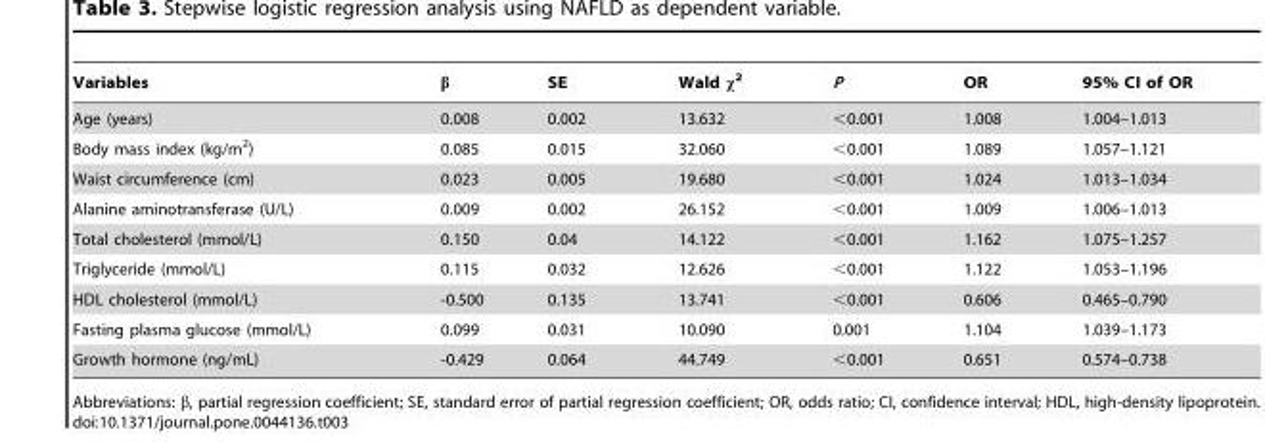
<table><thead><tr><td>Variables</td><td>β</td><td>SE</td><td>Wald χ<sup>2</sup></td><td>P</td><td>OR</td><td>95% CI of OR</td></tr></thead><tbody><tr><td>Age (years)</td><td>0.008</td><td>0.002</td><td>13.632</td><td>&lt;0.001</td><td>1.008</td><td>1.004–1.013</td></tr><tr><td>Body mass index (kg/m<sup>2</sup>)</td><td>0.085</td><td>0.015</td><td>32.060</td><td>&lt;0.001</td><td>1.089</td><td>1.057–1.121</td></tr><tr><td>Waist circumference (cm)</td><td>0.023</td><td>0.005</td><td>19.680</td><td>&lt;0.001</td><td>1.024</td><td>1.013–1.034</td></tr><tr><td>Alanine aminotransferase (U/L)</td><td>0.009</td><td>0.002</td><td>26.152</td><td>&lt;0.001</td><td>1.009</td><td>1.006–1.013</td></tr><tr><td>Total cholesterol (mmol/L)</td><td>0.150</td><td>0.04</td><td>14.122</td><td>&lt;0.001</td><td>1.162</td><td>1.075–1.257</td></tr><tr><td>Triglyceride (mmol/L)</td><td>0.115</td><td>0.032</td><td>12.626</td><td>&lt;0.001</td><td>1.122</td><td>1.053–1.196</td></tr><tr><td>HDL cholesterol (mmol/L)</td><td>-0.500</td><td>0.135</td><td>13.741</td><td>&lt;0.001</td><td>0.606</td><td>0.465–0.790</td></tr><tr><td>Fasting plasma glucose (mmol/L)</td><td>0.099</td><td>0.031</td><td>10.090</td><td>0.001</td><td>1.104</td><td>1.039–1.173</td></tr><tr><td>Growth hormone (ng/mL)</td><td>-0.429</td><td>0.064</td><td>44.749</td><td>&lt;0.001</td><td>0.651</td><td>0.574–0.738</td></tr></tbody></table>